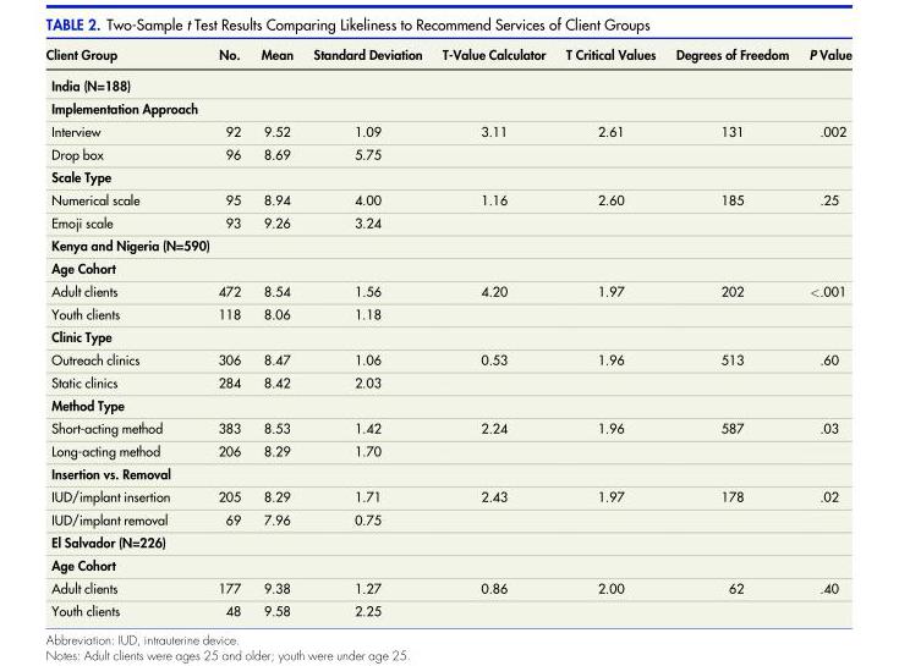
<table><thead><tr><td>Client Group</td><td>No.</td><td>Mean</td><td>Standard Deviation</td><td>T-Value Calculator</td><td>T Critical Values</td><td>Degrees of Freedom</td><td>P Value</td></tr></thead><tbody><tr><td colspan="8">India (N=188)</td></tr><tr><td colspan="8">Implementation Approach</td></tr><tr><td>Interview</td><td>92</td><td>9.52</td><td>1.09</td><td>3.11</td><td>2.61</td><td>131</td><td>.002</td></tr><tr><td>Drop box</td><td>96</td><td>8.69</td><td>5.75</td><td></td><td></td><td></td><td></td></tr><tr><td colspan="8">Scale Type</td></tr><tr><td>Numerical scale</td><td>95</td><td>8.94</td><td>4.00</td><td>1.16</td><td>2.60</td><td>185</td><td>.25</td></tr><tr><td>Emoji scale</td><td>93</td><td>9.26</td><td>3.24</td><td></td><td></td><td></td><td></td></tr><tr><td colspan="8">Kenya and Nigeria (N=590)</td></tr><tr><td colspan="8">Age Cohort</td></tr><tr><td>Adult clients</td><td>472</td><td>8.54</td><td>1.56</td><td>4.20</td><td>1.97</td><td>202</td><td>&lt;.001</td></tr><tr><td>Youth clients</td><td>118</td><td>8.06</td><td>1.18</td><td></td><td></td><td></td><td></td></tr><tr><td colspan="8">Clinic Type</td></tr><tr><td>Outreach clinics</td><td>306</td><td>8.47</td><td>1.06</td><td>0.53</td><td>1.96</td><td>513</td><td>.60</td></tr><tr><td>Static clinics</td><td>284</td><td>8.42</td><td>2.03</td><td></td><td></td><td></td><td></td></tr><tr><td colspan="8">Method Type</td></tr><tr><td>Short-acting method</td><td>383</td><td>8.53</td><td>1.42</td><td>2.24</td><td>1.96</td><td>587</td><td>.03</td></tr><tr><td>Long-acting method</td><td>206</td><td>8.29</td><td>1.70</td><td></td><td></td><td></td><td></td></tr><tr><td colspan="8">Insertion vs. Removal</td></tr><tr><td>IUD/implant insertion</td><td>205</td><td>8.29</td><td>1.71</td><td>2.43</td><td>1.97</td><td>178</td><td>.02</td></tr><tr><td>IUD/implant removal</td><td>69</td><td>7.96</td><td>0.75</td><td></td><td></td><td></td><td></td></tr><tr><td colspan="8">El Salvador (N=226)</td></tr><tr><td colspan="8">Age Cohort</td></tr><tr><td>Adult clients</td><td>177</td><td>9.38</td><td>1.27</td><td>0.86</td><td>2.00</td><td>62</td><td>.40</td></tr><tr><td>Youth clients</td><td>48</td><td>9.58</td><td>2.25</td><td></td><td></td><td></td><td></td></tr></tbody></table>